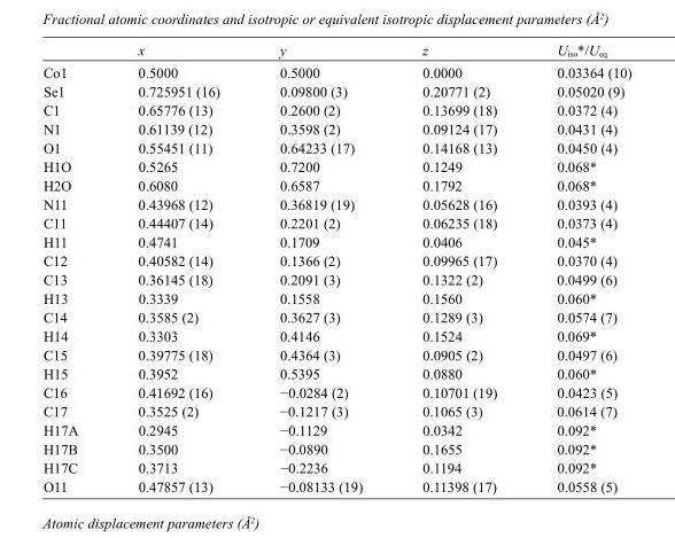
<table><thead><tr><td></td><td>x</td><td>y</td><td>z</td><td>U<sub>iso</sub>*/U<sub>eq</sub></td></tr></thead><tbody><tr><td>Co1</td><td>0.5000</td><td>0.5000</td><td>0.0000</td><td>0.03364 (10)</td></tr><tr><td>Se1</td><td>0.725951 (16)</td><td>0.09800 (3)</td><td>0.20771 (2)</td><td>0.05020 (9)</td></tr><tr><td>C1</td><td>0.65776 (13)</td><td>0.2600 (2)</td><td>0.13699 (18)</td><td>0.0372 (4)</td></tr><tr><td>N1</td><td>0.61139 (12)</td><td>0.3598 (2)</td><td>0.09124 (17)</td><td>0.0431 (4)</td></tr><tr><td>O1</td><td>0.55451 (11)</td><td>0.64233 (17)</td><td>0.14168 (13)</td><td>0.0450 (4)</td></tr><tr><td>H1O</td><td>0.5265</td><td>0.7200</td><td>0.1249</td><td>0.068*</td></tr><tr><td>H2O</td><td>0.6080</td><td>0.6587</td><td>0.1792</td><td>0.068*</td></tr><tr><td>N11</td><td>0.43968 (12)</td><td>0.36819 (19)</td><td>0.05628 (16)</td><td>0.0393 (4)</td></tr><tr><td>C11</td><td>0.44407 (14)</td><td>0.2201 (2)</td><td>0.06235 (18)</td><td>0.0373 (4)</td></tr><tr><td>H11</td><td>0.4741</td><td>0.1709</td><td>0.0406</td><td>0.045*</td></tr><tr><td>C12</td><td>0.40582 (14)</td><td>0.1366 (2)</td><td>0.09965 (17)</td><td>0.0370 (4)</td></tr><tr><td>C13</td><td>0.36145 (18)</td><td>0.2091 (3)</td><td>0.1322 (2)</td><td>0.0499 (6)</td></tr><tr><td>H13</td><td>0.3339</td><td>0.1558</td><td>0.1560</td><td>0.060*</td></tr><tr><td>C14</td><td>0.3585 (2)</td><td>0.3627 (3)</td><td>0.1289 (3)</td><td>0.0574 (7)</td></tr><tr><td>H14</td><td>0.3303</td><td>0.4146</td><td>0.1524</td><td>0.069*</td></tr><tr><td>C15</td><td>0.39775 (18)</td><td>0.4364 (3)</td><td>0.0905 (2)</td><td>0.0497 (6)</td></tr><tr><td>H15</td><td>0.3952</td><td>0.5395</td><td>0.0880</td><td>0.060*</td></tr><tr><td>C16</td><td>0.41692 (16)</td><td>−0.0284 (2)</td><td>0.10701 (19)</td><td>0.0423 (5)</td></tr><tr><td>C17</td><td>0.3525 (2)</td><td>−0.1217 (3)</td><td>0.1065 (3)</td><td>0.0614 (7)</td></tr><tr><td>H17A</td><td>0.2945</td><td>−0.1129</td><td>0.0342</td><td>0.092*</td></tr><tr><td>H17B</td><td>0.3500</td><td>−0.0890</td><td>0.1655</td><td>0.092*</td></tr><tr><td>H17C</td><td>0.3713</td><td>−0.2236</td><td>0.1194</td><td>0.092*</td></tr><tr><td>O11</td><td>0.47857 (13)</td><td>−0.08133 (19)</td><td>0.11398 (17)</td><td>0.0558 (5)</td></tr></tbody></table>